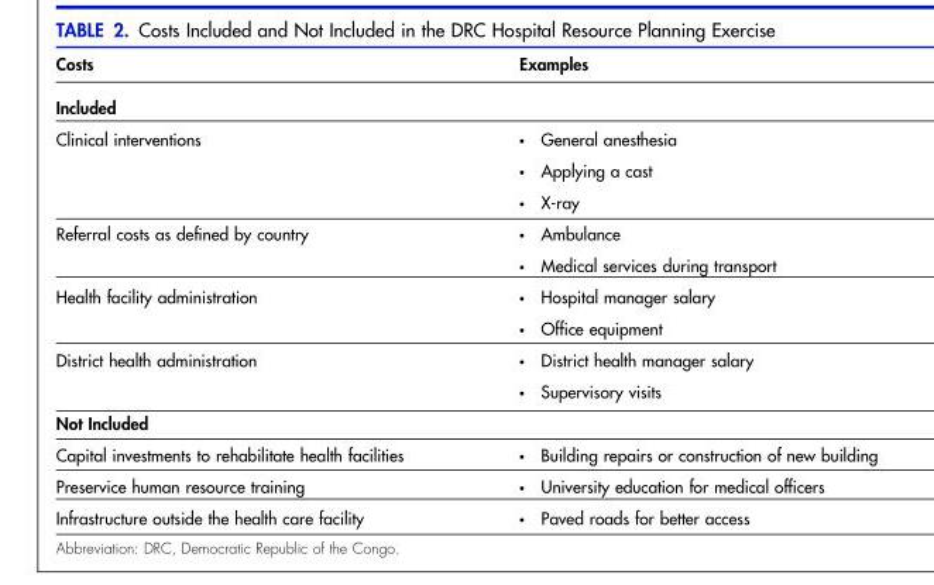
<table><thead><tr><td>Costs</td><td>Examples</td></tr></thead><tbody><tr><td colspan="2">Included</td></tr><tr><td rowspan="3">Clinical interventions</td><td>• General anesthesia</td></tr><tr><td>• Applying a cast</td></tr><tr><td>• X-ray</td></tr><tr><td rowspan="2">Referral costs as defined by country</td><td>• Ambulance</td></tr><tr><td>• Medical services during transport</td></tr><tr><td rowspan="2">Health facility administration</td><td>• Hospital manager salary</td></tr><tr><td>• Office equipment</td></tr><tr><td rowspan="2">District health administration</td><td>• District health manager salary</td></tr><tr><td>• Supervisory visits</td></tr><tr><td colspan="2">Not Included</td></tr><tr><td>Capital investments to rehabilitate health facilities</td><td>• Building repairs or construction of new building</td></tr><tr><td>Preservice human resource training</td><td>• University education for medical officers</td></tr><tr><td>Infrastructure outside the health care facility</td><td>• Paved roads for better access</td></tr></tbody></table>